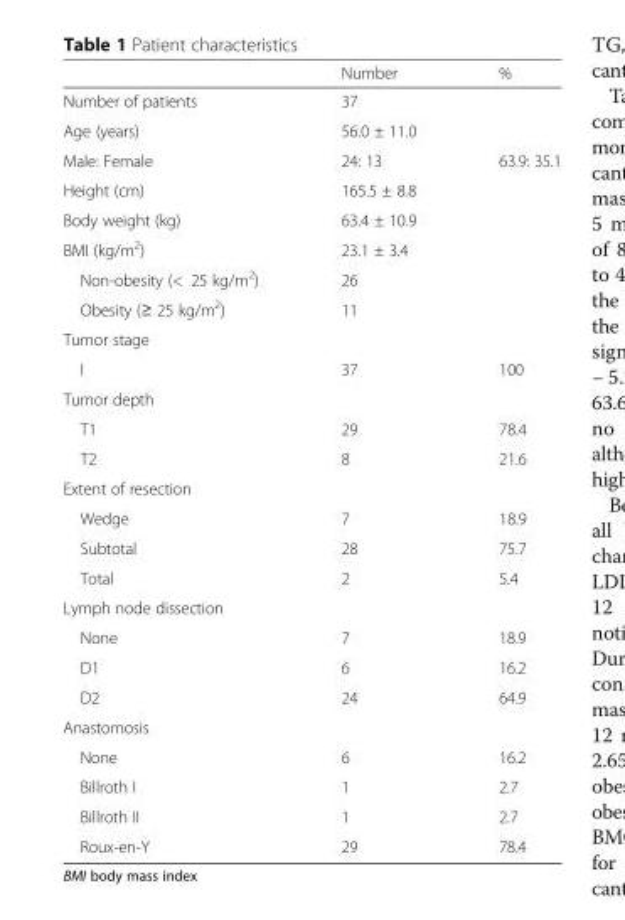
<table><thead><tr><td></td><td>Number</td><td>%</td></tr></thead><tbody><tr><td>Number of patients</td><td>37</td><td></td></tr><tr><td>Age (years)</td><td>56.0 ± 11.0</td><td></td></tr><tr><td>Male: Female</td><td>24: 13</td><td>63.9: 35.1</td></tr><tr><td>Height (cm)</td><td>165.5 ± 8.8</td><td></td></tr><tr><td>Body weight (kg)</td><td>63.4 ± 10.9</td><td></td></tr><tr><td>BMI (kg/m<sup>2</sup>)</td><td>23.1 ± 3.4</td><td></td></tr><tr><td>Non-obesity (&lt; 25 kg/m<sup>2</sup>)</td><td>26</td><td></td></tr><tr><td>Obesity (≥ 25 kg/m<sup>2</sup>)</td><td>11</td><td></td></tr><tr><td colspan="3">Tumor stage</td></tr><tr><td>I</td><td>37</td><td>100</td></tr><tr><td colspan="3">Tumor depth</td></tr><tr><td>T1</td><td>29</td><td>78.4</td></tr><tr><td>T2</td><td>8</td><td>21.6</td></tr><tr><td colspan="3">Extent of resection</td></tr><tr><td>Wedge</td><td>7</td><td>18.9</td></tr><tr><td>Subtotal</td><td>28</td><td>75.7</td></tr><tr><td>Total</td><td>2</td><td>5.4</td></tr><tr><td colspan="3">Lymph node dissection</td></tr><tr><td>None</td><td>7</td><td>18.9</td></tr><tr><td>D1</td><td>6</td><td>16.2</td></tr><tr><td>D2</td><td>24</td><td>64.9</td></tr><tr><td colspan="3">Anastomosis</td></tr><tr><td>None</td><td>6</td><td>16.2</td></tr><tr><td>Billroth I</td><td>1</td><td>2.7</td></tr><tr><td>Billroth II</td><td>1</td><td>2.7</td></tr><tr><td>Roux-en-Y</td><td>29</td><td>78.4</td></tr></tbody></table>